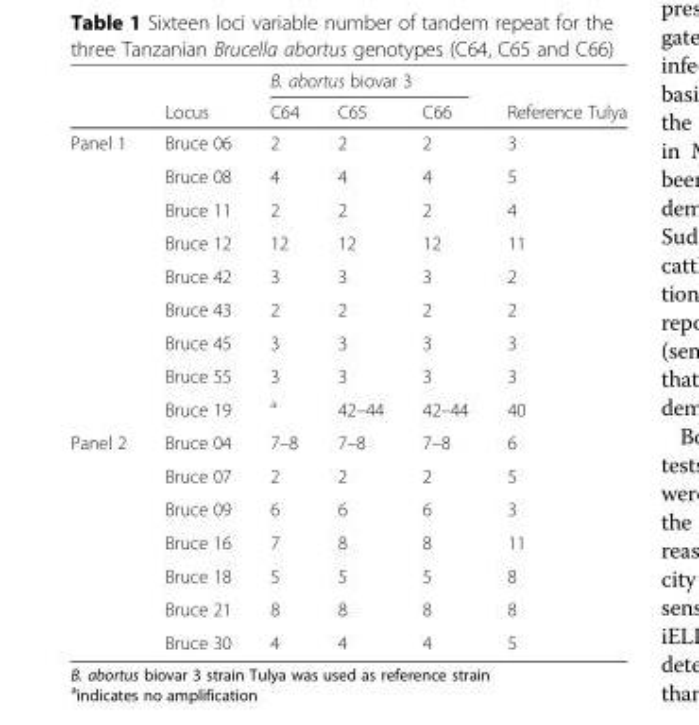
<table><thead><tr><td rowspan="2"></td><td rowspan="2">Locus</td><td colspan="3">B. abortus biovar 3</td><td rowspan="2">Reference Tulya</td></tr><tr><td>C64</td><td>C65</td><td>C66</td></tr></thead><tbody><tr><td rowspan="9">Panel 1</td><td>Bruce 06</td><td>2</td><td>2</td><td>2</td><td>3</td></tr><tr><td>Bruce 08</td><td>4</td><td>4</td><td>4</td><td>5</td></tr><tr><td>Bruce 11</td><td>2</td><td>2</td><td>2</td><td>4</td></tr><tr><td>Bruce 12</td><td>12</td><td>12</td><td>12</td><td>11</td></tr><tr><td>Bruce 42</td><td>3</td><td>3</td><td>3</td><td>2</td></tr><tr><td>Bruce 43</td><td>2</td><td>2</td><td>2</td><td>2</td></tr><tr><td>Bruce 45</td><td>3</td><td>3</td><td>3</td><td>3</td></tr><tr><td>Bruce 55</td><td>3</td><td>3</td><td>3</td><td>3</td></tr><tr><td>Bruce 19</td><td><sup>a</sup></td><td>42–44</td><td>42–44</td><td>40</td></tr><tr><td rowspan="7">Panel 2</td><td>Bruce 04</td><td>7–8</td><td>7–8</td><td>7–8</td><td>6</td></tr><tr><td>Bruce 07</td><td>2</td><td>2</td><td>2</td><td>5</td></tr><tr><td>Bruce 09</td><td>6</td><td>6</td><td>6</td><td>3</td></tr><tr><td>Bruce 16</td><td>7</td><td>8</td><td>8</td><td>11</td></tr><tr><td>Bruce 18</td><td>5</td><td>5</td><td>5</td><td>8</td></tr><tr><td>Bruce 21</td><td>8</td><td>8</td><td>8</td><td>8</td></tr><tr><td>Bruce 30</td><td>4</td><td>4</td><td>4</td><td>5</td></tr></tbody></table>